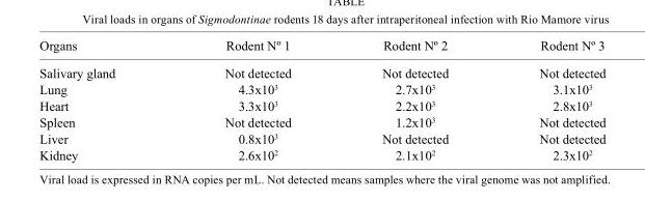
<table><thead><tr><td>Organs</td><td>Rodent Nº 1</td><td>Rodent Nº 2</td><td>Rodent Nº 3</td></tr></thead><tbody><tr><td>Salivary gland</td><td>Not detected</td><td>Not detected</td><td>Not detected</td></tr><tr><td>Lung</td><td>4.3x10<sup>3</sup></td><td>2.7x10<sup>3</sup></td><td>3.1x10<sup>3</sup></td></tr><tr><td>Heart</td><td>3.3x10<sup>3</sup></td><td>2.2x10<sup>3</sup></td><td>2.8x10<sup>3</sup></td></tr><tr><td>Spleen</td><td>Not detected</td><td>1.2x10<sup>3</sup></td><td>Not detected</td></tr><tr><td>Liver</td><td>0.8x10<sup>3</sup></td><td>Not detected</td><td>Not detected</td></tr><tr><td>Kidney</td><td>2.6x10<sup>2</sup></td><td>2.1x10<sup>2</sup></td><td>2.3x10<sup>2</sup></td></tr></tbody></table>